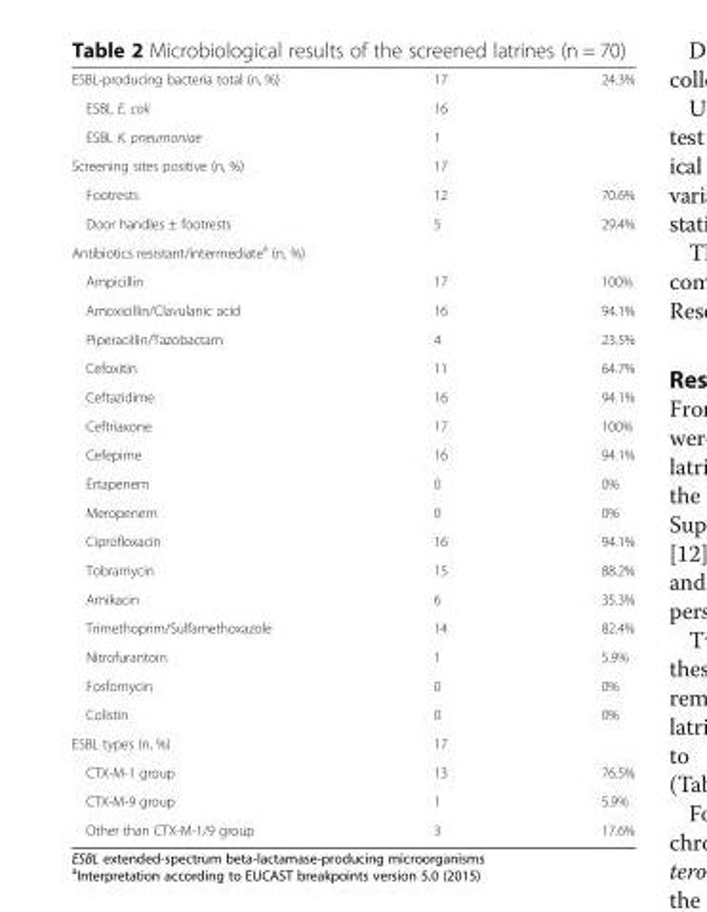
<table><tbody><tr><td>ESBL-producing bacteria total (n, %)</td><td>17</td><td>24.3%</td></tr><tr><td>ESBL E. coli</td><td>16</td><td></td></tr><tr><td>ESBL K. pneumoniae</td><td>1</td><td></td></tr><tr><td>Screening sites positive (n, %)</td><td>17</td><td></td></tr><tr><td>Footrests</td><td>12</td><td>70.6%</td></tr><tr><td>Door handles ± footrests</td><td>5</td><td>29.4%</td></tr><tr><td colspan="3">Antibiotics resistant/intermediate<sup>a</sup> (n, %)</td></tr><tr><td>Ampicillin</td><td>17</td><td>100%</td></tr><tr><td>Amoxicillin/Clavulanic acid</td><td>16</td><td>94.1%</td></tr><tr><td>Piperacillin/Tazobactam</td><td>4</td><td>23.5%</td></tr><tr><td>Cefoxitin</td><td>11</td><td>64.7%</td></tr><tr><td>Ceftazidime</td><td>16</td><td>94.1%</td></tr><tr><td>Ceftriaxone</td><td>17</td><td>100%</td></tr><tr><td>Cefepime</td><td>16</td><td>94.1%</td></tr><tr><td>Ertapenem</td><td>0</td><td>0%</td></tr><tr><td>Meropenem</td><td>0</td><td>0%</td></tr><tr><td>Ciprofloxacin</td><td>16</td><td>94.1%</td></tr><tr><td>Tobramycin</td><td>15</td><td>88.2%</td></tr><tr><td>Amikacin</td><td>6</td><td>35.3%</td></tr><tr><td>Trimethoprim/Sulfamethoxazole</td><td>14</td><td>82.4%</td></tr><tr><td>Nitrofurantoin</td><td>1</td><td>5.9%</td></tr><tr><td>Fosfomycin</td><td>0</td><td>0%</td></tr><tr><td>Colistin</td><td>0</td><td>0%</td></tr><tr><td>ESBL types (n, %)</td><td>17</td><td></td></tr><tr><td>CTX-M-1 group</td><td>13</td><td>76.5%</td></tr><tr><td>CTX-M-9 group</td><td>1</td><td>5.9%</td></tr><tr><td>Other than CTX-M-1/9 group</td><td>3</td><td>17.6%</td></tr></tbody></table>